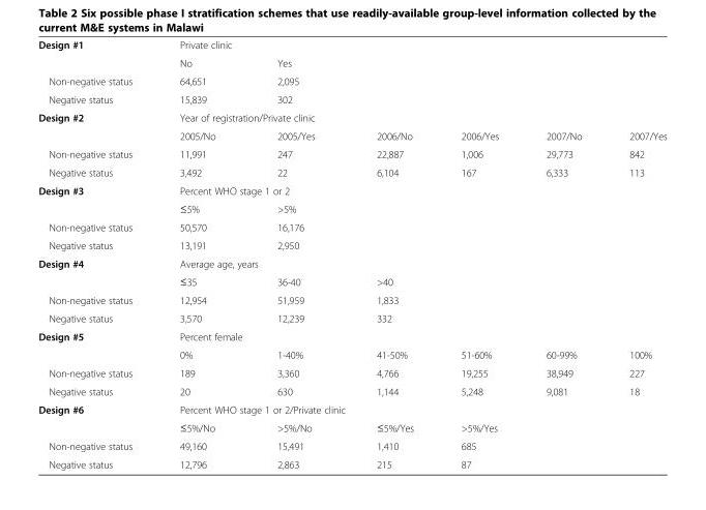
<table><tbody><tr><td rowspan="2">Design #1</td><td colspan="2">Private clinic</td><td></td><td></td><td></td><td></td></tr><tr><td>No</td><td>Yes</td><td></td><td></td><td></td><td></td></tr><tr><td>Non-negative status</td><td>64,651</td><td>2,095</td><td></td><td></td><td></td><td></td></tr><tr><td>Negative status</td><td>15,839</td><td>302</td><td></td><td></td><td></td><td></td></tr><tr><td rowspan="2">Design #2</td><td colspan="6">Year of registration/Private clinic</td></tr><tr><td>2005/No</td><td>2005/Yes</td><td>2006/No</td><td>2006/Yes</td><td>2007/No</td><td>2007/Yes</td></tr><tr><td>Non-negative status</td><td>11,991</td><td>247</td><td>22,887</td><td>1,006</td><td>29,773</td><td>842</td></tr><tr><td>Negative status</td><td>3,492</td><td>22</td><td>6,104</td><td>167</td><td>6,333</td><td>113</td></tr><tr><td rowspan="2">Design #3</td><td colspan="2">Percent WHO stage 1 or 2</td><td></td><td></td><td></td><td></td></tr><tr><td>≤5%</td><td>&gt;5%</td><td></td><td></td><td></td><td></td></tr><tr><td>Non-negative status</td><td>50,570</td><td>16,176</td><td></td><td></td><td></td><td></td></tr><tr><td>Negative status</td><td>13,191</td><td>2,950</td><td></td><td></td><td></td><td></td></tr><tr><td rowspan="2">Design #4</td><td colspan="3">Average age, years</td><td></td><td></td><td></td></tr><tr><td>≤35</td><td>36-40</td><td>&gt;40</td><td></td><td></td><td></td></tr><tr><td>Non-negative status</td><td>12,954</td><td>51,959</td><td>1,833</td><td></td><td></td><td></td></tr><tr><td>Negative status</td><td>3,570</td><td>12,239</td><td>332</td><td></td><td></td><td></td></tr><tr><td rowspan="2">Design #5</td><td colspan="6">Percent female</td></tr><tr><td>0%</td><td>1-40%</td><td>41-50%</td><td>51-60%</td><td>60-99%</td><td>100%</td></tr><tr><td>Non-negative status</td><td>189</td><td>3,360</td><td>4,766</td><td>19,255</td><td>38,949</td><td>227</td></tr><tr><td>Negative status</td><td>20</td><td>630</td><td>1,144</td><td>5,248</td><td>9,081</td><td>18</td></tr><tr><td rowspan="2">Design #6</td><td colspan="4">Percent WHO stage 1 or 2/Private clinic</td><td></td><td></td></tr><tr><td>≤5%/No</td><td>&gt;5%/No</td><td>≤5%/Yes</td><td>&gt;5%/Yes</td><td></td><td></td></tr><tr><td>Non-negative status</td><td>49,160</td><td>15,491</td><td>1,410</td><td>685</td><td></td><td></td></tr><tr><td>Negative status</td><td>12,796</td><td>2,863</td><td>215</td><td>87</td><td></td><td></td></tr></tbody></table>